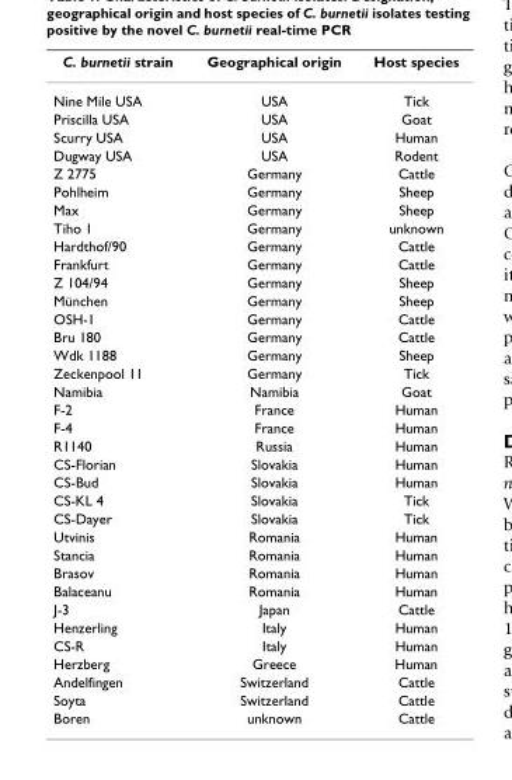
<table><thead><tr><td>C. burnetii strain</td><td>Geographical origin</td><td>Host species</td></tr></thead><tbody><tr><td>Nine Mile USA</td><td>USA</td><td>Tick</td></tr><tr><td>Priscilla USA</td><td>USA</td><td>Goat</td></tr><tr><td>Scurry USA</td><td>USA</td><td>Human</td></tr><tr><td>Dugway USA</td><td>USA</td><td>Rodent</td></tr><tr><td>Z 2775</td><td>Germany</td><td>Cattle</td></tr><tr><td>Pohlheim</td><td>Germany</td><td>Sheep</td></tr><tr><td>Max</td><td>Germany</td><td>Sheep</td></tr><tr><td>Tiho 1</td><td>Germany</td><td>unknown</td></tr><tr><td>Hardthof/90</td><td>Germany</td><td>Cattle</td></tr><tr><td>Frankfurt</td><td>Germany</td><td>Cattle</td></tr><tr><td>Z 104/94</td><td>Germany</td><td>Sheep</td></tr><tr><td>München</td><td>Germany</td><td>Sheep</td></tr><tr><td>OSH-1</td><td>Germany</td><td>Cattle</td></tr><tr><td>Bru 180</td><td>Germany</td><td>Cattle</td></tr><tr><td>Wdk 1188</td><td>Germany</td><td>Sheep</td></tr><tr><td>Zeckenpool 11</td><td>Germany</td><td>Tick</td></tr><tr><td>Namibia</td><td>Namibia</td><td>Goat</td></tr><tr><td>F-2</td><td>France</td><td>Human</td></tr><tr><td>F-4</td><td>France</td><td>Human</td></tr><tr><td>R1140</td><td>Russia</td><td>Human</td></tr><tr><td>CS-Florian</td><td>Slovakia</td><td>Human</td></tr><tr><td>CS-Bud</td><td>Slovakia</td><td>Human</td></tr><tr><td>CS-KL 4</td><td>Slovakia</td><td>Tick</td></tr><tr><td>CS-Dayer</td><td>Slovakia</td><td>Tick</td></tr><tr><td>Utvinis</td><td>Romania</td><td>Human</td></tr><tr><td>Stancia</td><td>Romania</td><td>Human</td></tr><tr><td>Brasov</td><td>Romania</td><td>Human</td></tr><tr><td>Balaceanu</td><td>Romania</td><td>Human</td></tr><tr><td>J-3</td><td>Japan</td><td>Cattle</td></tr><tr><td>Henzerling</td><td>Italy</td><td>Human</td></tr><tr><td>CS-R</td><td>Italy</td><td>Human</td></tr><tr><td>Herzberg</td><td>Greece</td><td>Human</td></tr><tr><td>Andelfingen</td><td>Switzerland</td><td>Cattle</td></tr><tr><td>Soyta</td><td>Switzerland</td><td>Cattle</td></tr><tr><td>Boren</td><td>unknown</td><td>Cattle</td></tr></tbody></table>